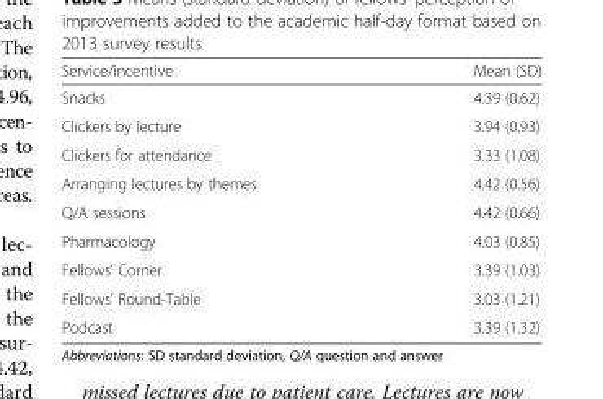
<table><thead><tr><td>Service/incentive</td><td>Mean (SD)</td></tr></thead><tbody><tr><td>Snacks</td><td>4.39 (0.62)</td></tr><tr><td>Clickers by lecture</td><td>3.94 (0.93)</td></tr><tr><td>Clickers for attendance</td><td>3.33 (1.08)</td></tr><tr><td>Arranging lectures by themes</td><td>4.42 (0.56)</td></tr><tr><td>Q/A sessions</td><td>4.42 (0.66)</td></tr><tr><td>Pharmacology</td><td>4.03 (0.85)</td></tr><tr><td>Fellows’ Corner</td><td>3.39 (1.03)</td></tr><tr><td>Fellows’ Round-Table</td><td>3.03 (1.21)</td></tr><tr><td>Podcast</td><td>3.39 (1.32)</td></tr></tbody></table>